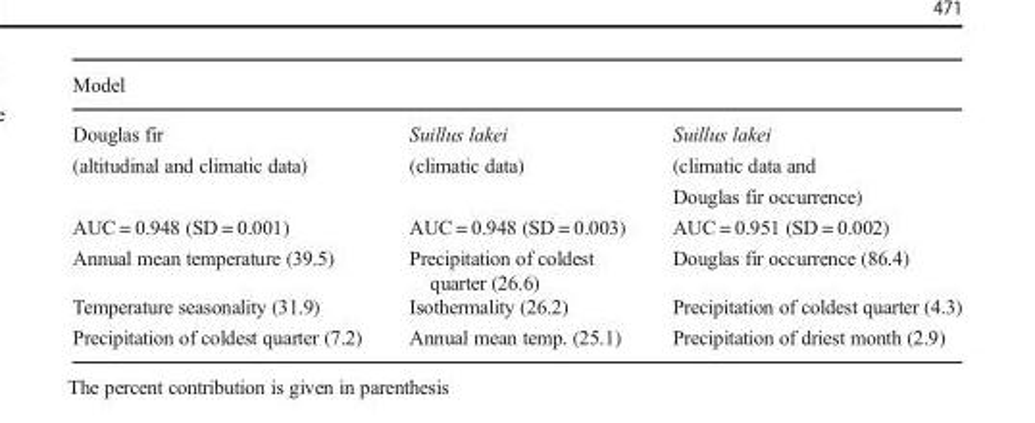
<table><thead><tr><td colspan="3">Model</td></tr><tr><td>Douglas fir (altitudinal and climatic data)</td><td>Suillus lakei (climatic data)</td><td>Suillus lakei (climatic data and Douglas fir occurrence)</td></tr></thead><tbody><tr><td>AUC = 0.948 (SD = 0.001)</td><td>AUC = 0.948 (SD = 0.003)</td><td>AUC = 0.951 (SD = 0.002)</td></tr><tr><td>Annual mean temperature (39.5)</td><td>Precipitation of coldest quarter (26.6)</td><td>Douglas fir occurrence (86.4)</td></tr><tr><td>Temperature seasonality (31.9)</td><td>Isothermality (26.2)</td><td>Precipitation of coldest quarter (4.3)</td></tr><tr><td>Precipitation of coldest quarter (7.2)</td><td>Annual mean temp. (25.1)</td><td>Precipitation of driest month (2.9)</td></tr></tbody></table>